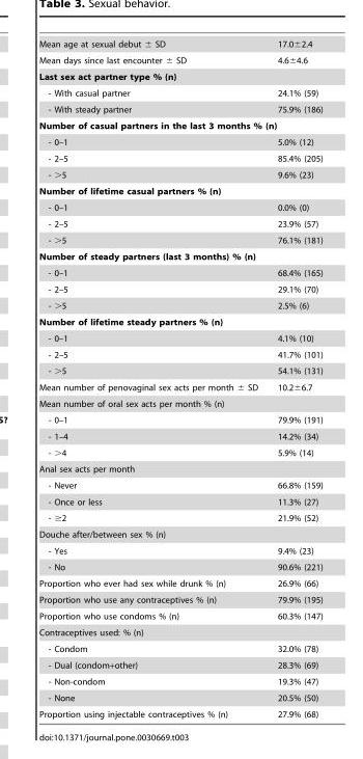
<table><tbody><tr><td>Mean age at sexual debut ± SD</td><td>17.0±2.4</td></tr><tr><td>Mean days since last encounter ± SD</td><td>4.6±4.6</td></tr><tr><td colspan="2">Last sex act partner type % (n)</td></tr><tr><td>- With casual partner</td><td>24.1% (59)</td></tr><tr><td>- With steady partner</td><td>75.9% (186)</td></tr><tr><td colspan="2">Number of casual partners in the last 3 months % (n)</td></tr><tr><td>- 0–1</td><td>5.0% (12)</td></tr><tr><td>- 2–5</td><td>85.4% (205)</td></tr><tr><td>- &gt;5</td><td>9.6% (23)</td></tr><tr><td colspan="2">Number of lifetime casual partners % (n)</td></tr><tr><td>- 0–1</td><td>0.0% (0)</td></tr><tr><td>- 2–5</td><td>23.9% (57)</td></tr><tr><td>- &gt;5</td><td>76.1% (181)</td></tr><tr><td colspan="2">Number of steady partners (last 3 months) % (n)</td></tr><tr><td>- 0–1</td><td>68.4% (165)</td></tr><tr><td>- 2–5</td><td>29.1% (70)</td></tr><tr><td>- &gt;5</td><td>2.5% (6)</td></tr><tr><td colspan="2">Number of lifetime steady partners % (n)</td></tr><tr><td>- 0–1</td><td>4.1% (10)</td></tr><tr><td>- 2–5</td><td>41.7% (101)</td></tr><tr><td>- &gt;5</td><td>54.1% (131)</td></tr><tr><td>Mean number of penovaginal sex acts per month ± SD</td><td>10.2±6.7</td></tr><tr><td colspan="2">Mean number of oral sex acts per month % (n)</td></tr><tr><td>- 0–1</td><td>79.9% (191)</td></tr><tr><td>- 1–4</td><td>14.2% (34)</td></tr><tr><td>- &gt;4</td><td>5.9% (14)</td></tr><tr><td colspan="2">Anal sex acts per month</td></tr><tr><td>- Never</td><td>66.8% (159)</td></tr><tr><td>- Once or less</td><td>11.3% (27)</td></tr><tr><td>- ≥2</td><td>21.9% (52)</td></tr><tr><td colspan="2">Douche after/between sex % (n)</td></tr><tr><td>- Yes</td><td>9.4% (23)</td></tr><tr><td>- No</td><td>90.6% (221)</td></tr><tr><td>Proportion who ever had sex while drunk % (n)</td><td>26.9% (66)</td></tr><tr><td>Proportion who use any contraceptives % (n)</td><td>79.9% (195)</td></tr><tr><td>Proportion who use condoms % (n)</td><td>60.3% (147)</td></tr><tr><td colspan="2">Contraceptives used: % (n)</td></tr><tr><td>- Condom</td><td>32.0% (78)</td></tr><tr><td>- Dual (condom+other)</td><td>28.3% (69)</td></tr><tr><td>- Non-condom</td><td>19.3% (47)</td></tr><tr><td>- None</td><td>20.5% (50)</td></tr><tr><td>Proportion using injectable contraceptives % (n)</td><td>27.9% (68)</td></tr></tbody></table>